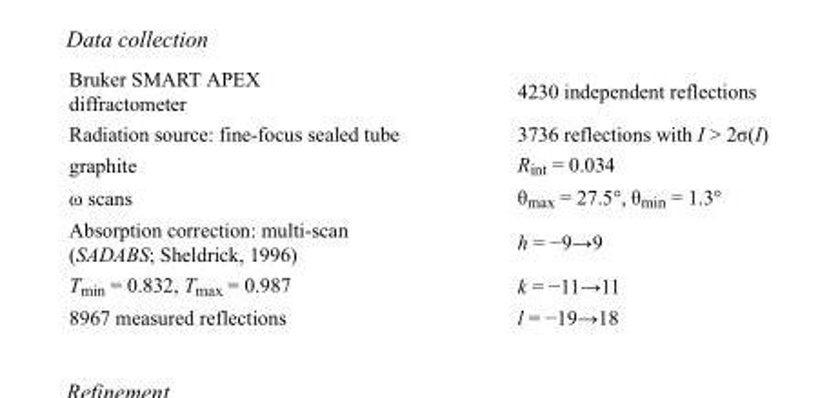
<table><tbody><tr><td>Bruker SMART APEX diffractometer</td><td>4230 independent reflections</td></tr><tr><td>Radiation source: fine-focus sealed tube</td><td>3736 reflections with I &gt; 2σ(I)</td></tr><tr><td>graphite</td><td>R<sub>int</sub> = 0.034</td></tr><tr><td>ω scans</td><td>θ<sub>max</sub> = 27.5°, θ<sub>min</sub> = 1.3°</td></tr><tr><td>Absorption correction: multi-scan (SADABS; Sheldrick, 1996)</td><td>h = −9→9</td></tr><tr><td>T<sub>min</sub> = 0.832, T<sub>max</sub> = 0.987</td><td>k = −11→11</td></tr><tr><td>8967 measured reflections</td><td>l = −19→18</td></tr></tbody></table>